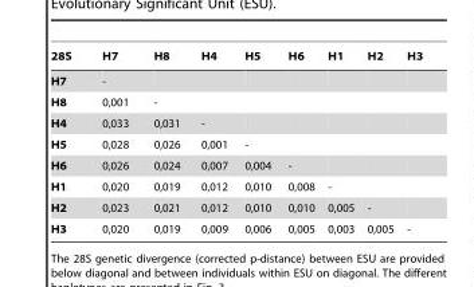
<table><thead><tr><td>28S</td><td>H7</td><td>H8</td><td>H4</td><td>H5</td><td>H6</td><td>H1</td><td>H2</td><td>H3</td></tr></thead><tbody><tr><td>H7</td><td>-</td><td></td><td></td><td></td><td></td><td></td><td></td><td></td></tr><tr><td>H8</td><td>0,001</td><td>-</td><td></td><td></td><td></td><td></td><td></td><td></td></tr><tr><td>H4</td><td>0,033</td><td>0,031</td><td>-</td><td></td><td></td><td></td><td></td><td></td></tr><tr><td>H5</td><td>0,028</td><td>0,026</td><td>0,001</td><td>-</td><td></td><td></td><td></td><td></td></tr><tr><td>H6</td><td>0,026</td><td>0,024</td><td>0,007</td><td>0,004</td><td>-</td><td></td><td></td><td></td></tr><tr><td>H1</td><td>0,020</td><td>0,019</td><td>0,012</td><td>0,010</td><td>0,008</td><td>-</td><td></td><td></td></tr><tr><td>H2</td><td>0,023</td><td>0,021</td><td>0,012</td><td>0,010</td><td>0,010</td><td>0,005</td><td>-</td><td></td></tr><tr><td>H3</td><td>0,020</td><td>0,019</td><td>0,009</td><td>0,006</td><td>0,005</td><td>0,003</td><td>0,005</td><td>-</td></tr></tbody></table>